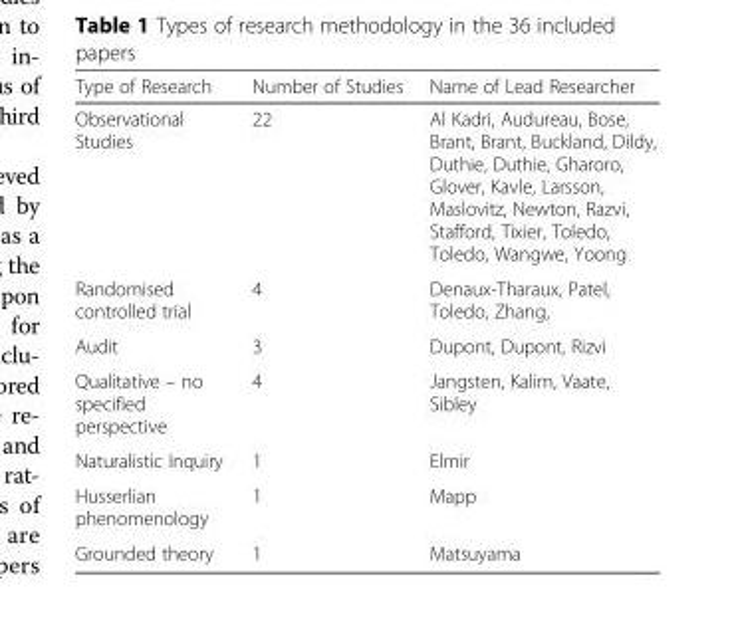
<table><thead><tr><td>Type of Research</td><td>Number of Studies</td><td>Name of Lead Researcher</td></tr></thead><tbody><tr><td>Observational Studies</td><td>22</td><td>Al Kadri, Audureau, Bose, Brant, Brant, Buckland, Dildy, Duthie, Duthie, Gharoro, Glover, Kavle, Larsson, Maslovitz, Newton, Razvi, Stafford, Tixier, Toledo, Toledo, Wangwe, Yoong</td></tr><tr><td>Randomised controlled trial</td><td>4</td><td>Denaux-Tharaux, Patel, Toledo, Zhang,</td></tr><tr><td>Audit</td><td>3</td><td>Dupont, Dupont, Rizvi</td></tr><tr><td>Qualitative – no specified perspective</td><td>4</td><td>Jangsten, Kalim, Vaate, Sibley</td></tr><tr><td>Naturalistic Inquiry</td><td>1</td><td>Elmir</td></tr><tr><td>Husserlian phenomenology</td><td>1</td><td>Mapp</td></tr><tr><td>Grounded theory</td><td>1</td><td>Matsuyama</td></tr></tbody></table>